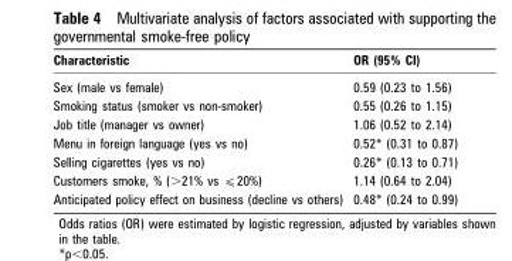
<table><thead><tr><td>Characteristic</td><td>OR (95% CI)</td></tr></thead><tbody><tr><td>Sex (male vs female)</td><td>0.59 (0.23 to 1.56)</td></tr><tr><td>Smoking status (smoker vs non-smoker)</td><td>0.55 (0.26 to 1.15)</td></tr><tr><td>Job title (manager vs owner)</td><td>1.06 (0.52 to 2.14)</td></tr><tr><td>Menu in foreign language (yes vs no)</td><td>0.52* (0.31 to 0.87)</td></tr><tr><td>Selling cigarettes (yes vs no)</td><td>0.26* (0.13 to 0.71)</td></tr><tr><td>Customers smoke, % (&gt;21% vs ⩽20%)</td><td>1.14 (0.64 to 2.04)</td></tr><tr><td>Anticipated policy effect on business (decline vs others)</td><td>0.48* (0.24 to 0.99)</td></tr></tbody></table>